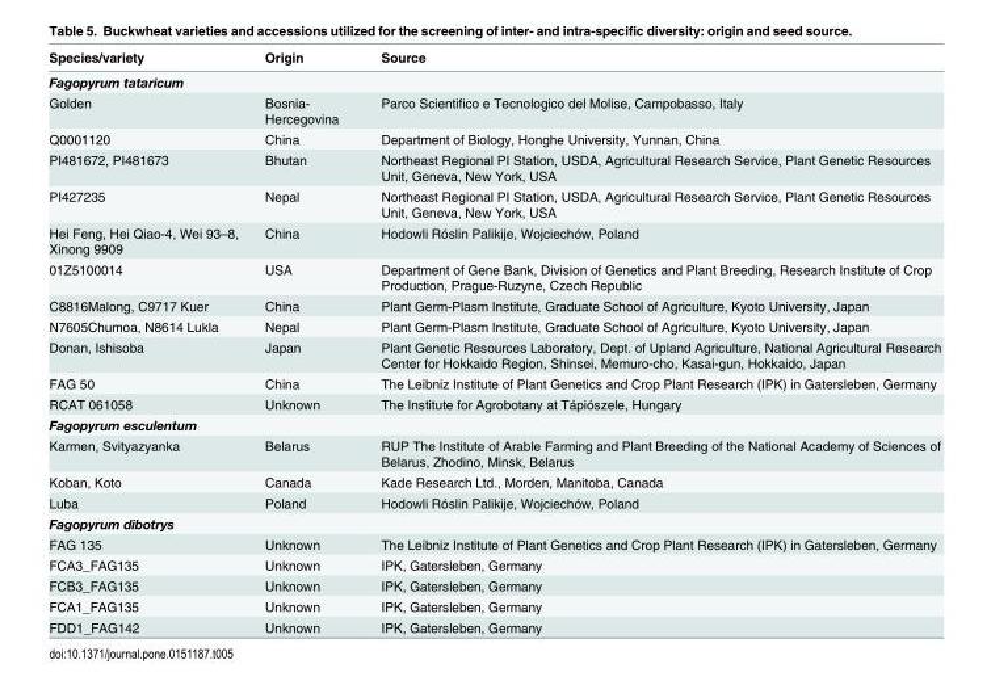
<table><thead><tr><td>Species/variety</td><td>Origin</td><td>Source</td></tr></thead><tbody><tr><td colspan="3">Fagopyrum tataricum</td></tr><tr><td>Golden</td><td>Bosnia- Hercegovina</td><td>Parco Scientifico e Tecnologico del Molise, Campobasso, Italy</td></tr><tr><td>Q0001120</td><td>China</td><td>Department of Biology, Honghe University, Yunnan, China</td></tr><tr><td>PI481672, PI481673</td><td>Bhutan</td><td>Northeast Regional PI Station, USDA, Agricultural Research Service, Plant Genetic Resources Unit, Geneva, New York, USA</td></tr><tr><td>PI427235</td><td>Nepal</td><td>Northeast Regional PI Station, USDA, Agricultural Research Service, Plant Genetic Resources Unit, Geneva, New York, USA</td></tr><tr><td>Hei Feng, Hei Qiao-4, Wei 93–8, Xinong 9909</td><td>China</td><td>Hodowli Róslin Palikije, Wojciechów, Poland</td></tr><tr><td>01Z5100014</td><td>USA</td><td>Department of Gene Bank, Division of Genetics and Plant Breeding, Research Institute of Crop Production, Prague-Ruzyne, Czech Republic</td></tr><tr><td>C8816Malong, C9717 Kuer</td><td>China</td><td>Plant Germ-Plasm Institute, Graduate School of Agriculture, Kyoto University, Japan</td></tr><tr><td>N7605Chumoa, N8614 Lukla</td><td>Nepal</td><td>Plant Germ-Plasm Institute, Graduate School of Agriculture, Kyoto University, Japan</td></tr><tr><td>Donan, Ishisoba</td><td>Japan</td><td>Plant Genetic Resources Laboratory, Dept. of Upland Agriculture, National Agricultural Research Center for Hokkaido Region, Shinsei, Memuro-cho, Kasai-gun, Hokkaido, Japan</td></tr><tr><td>FAG 50</td><td>China</td><td>The Leibniz Institute of Plant Genetics and Crop Plant Research (IPK) in Gatersleben, Germany</td></tr><tr><td>RCAT 061058</td><td>Unknown</td><td>The Institute for Agrobotany at Tápiószele, Hungary</td></tr><tr><td colspan="3">Fagopyrum esculentum</td></tr><tr><td>Karmen, Svityazyanka</td><td>Belarus</td><td>RUP The Institute of Arable Farming and Plant Breeding of the National Academy of Sciences of Belarus, Zhodino, Minsk, Belarus</td></tr><tr><td>Koban, Koto</td><td>Canada</td><td>Kade Research Ltd., Morden, Manitoba, Canada</td></tr><tr><td>Luba</td><td>Poland</td><td>Hodowli Róslin Palikije, Wojciechów, Poland</td></tr><tr><td colspan="3">Fagopyrum dibotrys</td></tr><tr><td>FAG 135</td><td>Unknown</td><td>The Leibniz Institute of Plant Genetics and Crop Plant Research (IPK) in Gatersleben, Germany</td></tr><tr><td>FCA3_FAG135</td><td>Unknown</td><td>IPK, Gatersleben, Germany</td></tr><tr><td>FCB3_FAG135</td><td>Unknown</td><td>IPK, Gatersleben, Germany</td></tr><tr><td>FCA1_FAG135</td><td>Unknown</td><td>IPK, Gatersleben, Germany</td></tr><tr><td>FDD1_FAG142</td><td>Unknown</td><td>IPK, Gatersleben, Germany</td></tr></tbody></table>